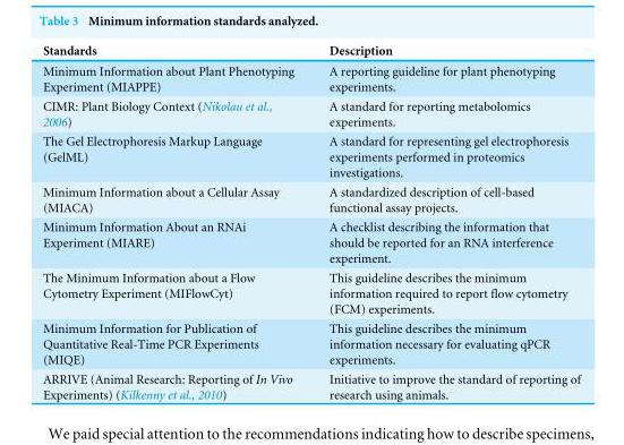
<table><thead><tr><td>Standards</td><td>Description</td></tr></thead><tbody><tr><td>Minimum Information about Plant Phenotyping Experiment (MIAPPE)</td><td>A reporting guideline for plant phenotyping experiments.</td></tr><tr><td>CIMR: Plant Biology Context (Nikolau et al., 2006)</td><td>A standard for reporting metabolomics experiments.</td></tr><tr><td>The Gel Electrophoresis Markup Language (GelML)</td><td>A standard for representing gel electrophoresis experiments performed in proteomics investigations.</td></tr><tr><td>Minimum Information about a Cellular Assay (MIACA)</td><td>A standardized description of cell-based functional assay projects.</td></tr><tr><td>Minimum Information About an RNAi Experiment (MIARE)</td><td>A checklist describing the information that should be reported for an RNA interference experiment.</td></tr><tr><td>The Minimum Information about a Flow Cytometry Experiment (MIFlowCyt)</td><td>This guideline describes the minimum information required to report flow cytometry (FCM) experiments.</td></tr><tr><td>Minimum Information for Publication of Quantitative Real-Time PCR Experiments (MIQE)</td><td>This guideline describes the minimum information necessary for evaluating qPCR experiments.</td></tr><tr><td>ARRIVE (Animal Research: Reporting of In Vivo Experiments) (Kilkenny et al., 2010)</td><td>Initiative to improve the standard of reporting of research using animals.</td></tr></tbody></table>